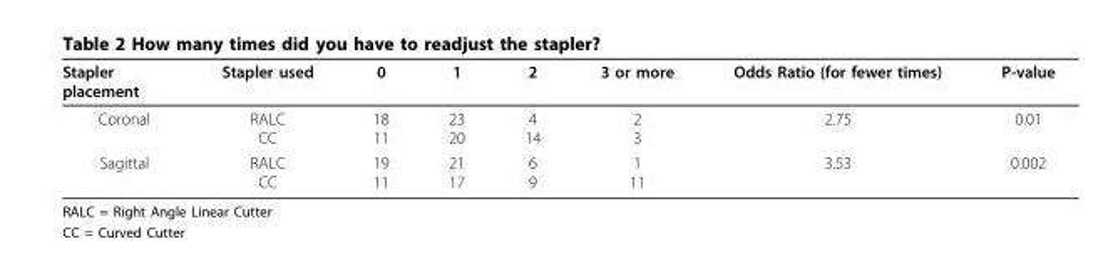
<table><thead><tr><td>Stapler placement</td><td>Stapler used</td><td>0</td><td>1</td><td>2</td><td>3 or more</td><td>Odds Ratio (for fewer times)</td><td>P-value</td></tr></thead><tbody><tr><td>Coronal</td><td>RALC CC</td><td>18 11</td><td>23 20</td><td>4 14</td><td>2 3</td><td>2.75</td><td>0.01</td></tr><tr><td>Sagittal</td><td>RALC CC</td><td>19 11</td><td>21 17</td><td>6 9</td><td>1 11</td><td>3.53</td><td>0.002</td></tr></tbody></table>